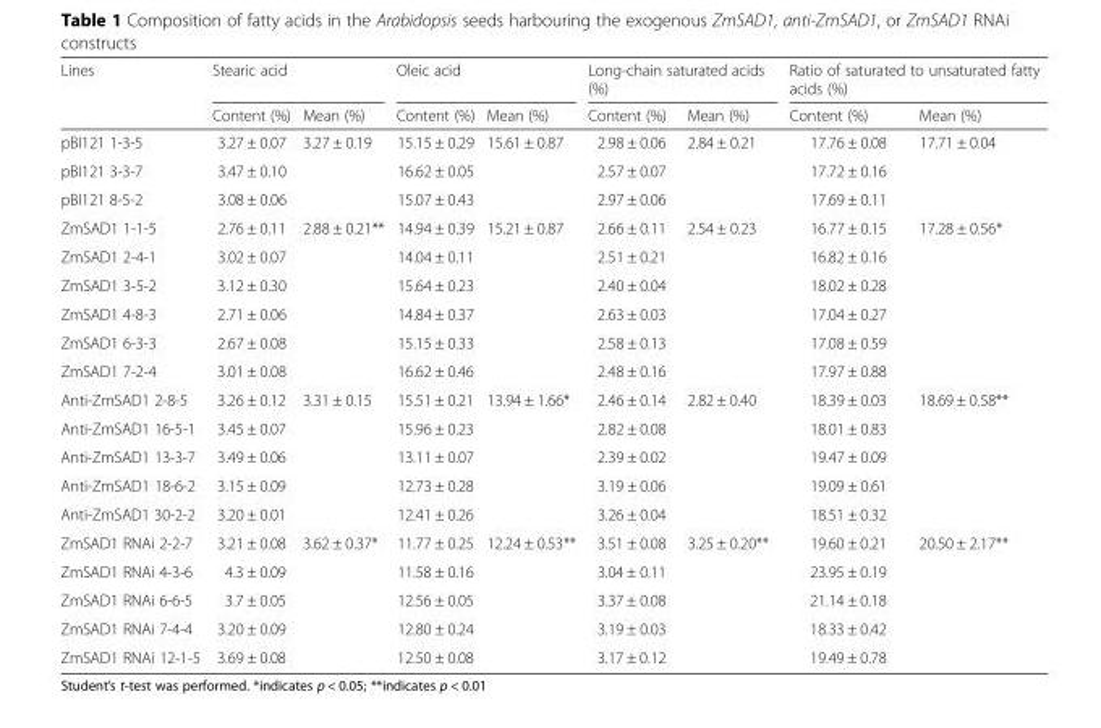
<table><thead><tr><td rowspan="2">Lines</td><td colspan="2">Stearic acid</td><td colspan="2">Oleic acid</td><td colspan="2">Long-chain saturated acids (%)</td><td colspan="2">Ratio of saturated to unsaturated fatty acids (%)</td></tr><tr><td>Content (%)</td><td>Mean (%)</td><td>Content (%)</td><td>Mean (%)</td><td>Content (%)</td><td>Mean (%)</td><td>Content (%)</td><td>Mean (%)</td></tr></thead><tbody><tr><td>pBI121 1-3-5</td><td>3.27 ± 0.07</td><td rowspan="3">3.27 ± 0.19</td><td>15.15 ± 0.29</td><td rowspan="3">15.61 ± 0.87</td><td>2.98 ± 0.06</td><td rowspan="3">2.84 ± 0.21</td><td>17.76 ± 0.08</td><td rowspan="3">17.71 ± 0.04</td></tr><tr><td>pBI121 3-3-7</td><td>3.47 ± 0.10</td><td>16.62 ± 0.05</td><td>2.57 ± 0.07</td><td>17.72 ± 0.16</td></tr><tr><td>pBI121 8-5-2</td><td>3.08 ± 0.06</td><td>15.07 ± 0.43</td><td>2.97 ± 0.06</td><td>17.69 ± 0.11</td></tr><tr><td>ZmSAD1 1-1-5</td><td>2.76 ± 0.11</td><td rowspan="6">2.88 ± 0.21**</td><td>14.94 ± 0.39</td><td rowspan="6">15.21 ± 0.87</td><td>2.66 ± 0.11</td><td rowspan="6">2.54 ± 0.23</td><td>16.77 ± 0.15</td><td rowspan="6">17.28 ± 0.56*</td></tr><tr><td>ZmSAD1 2-4-1</td><td>3.02 ± 0.07</td><td>14.04 ± 0.11</td><td>2.51 ± 0.21</td><td>16.82 ± 0.16</td></tr><tr><td>ZmSAD1 3-5-2</td><td>3.12 ± 0.30</td><td>15.64 ± 0.23</td><td>2.40 ± 0.04</td><td>18.02 ± 0.28</td></tr><tr><td>ZmSAD1 4-8-3</td><td>2.71 ± 0.06</td><td>14.84 ± 0.37</td><td>2.63 ± 0.03</td><td>17.04 ± 0.27</td></tr><tr><td>ZmSAD1 6-3-3</td><td>2.67 ± 0.08</td><td>15.15 ± 0.33</td><td>2.58 ± 0.13</td><td>17.08 ± 0.59</td></tr><tr><td>ZmSAD1 7-2-4</td><td>3.01 ± 0.08</td><td>16.62 ± 0.46</td><td>2.48 ± 0.16</td><td>17.97 ± 0.88</td></tr><tr><td>Anti-ZmSAD1 2-8-5</td><td>3.26 ± 0.12</td><td rowspan="5">3.31 ± 0.15</td><td>15.51 ± 0.21</td><td rowspan="5">13.94 ± 1.66*</td><td>2.46 ± 0.14</td><td rowspan="5">2.82 ± 0.40</td><td>18.39 ± 0.03</td><td rowspan="5">18.69 ± 0.58**</td></tr><tr><td>Anti-ZmSAD1 16-5-1</td><td>3.45 ± 0.07</td><td>15.96 ± 0.23</td><td>2.82 ± 0.08</td><td>18.01 ± 0.83</td></tr><tr><td>Anti-ZmSAD1 13-3-7</td><td>3.49 ± 0.06</td><td>13.11 ± 0.07</td><td>2.39 ± 0.02</td><td>19.47 ± 0.09</td></tr><tr><td>Anti-ZmSAD1 18-6-2</td><td>3.15 ± 0.09</td><td>12.73 ± 0.28</td><td>3.19 ± 0.06</td><td>19.09 ± 0.61</td></tr><tr><td>Anti-ZmSAD1 30-2-2</td><td>3.20 ± 0.01</td><td>12.41 ± 0.26</td><td>3.26 ± 0.04</td><td>18.51 ± 0.32</td></tr><tr><td>ZmSAD1 RNAi 2-2-7</td><td>3.21 ± 0.08</td><td rowspan="5">3.62 ± 0.37*</td><td>11.77 ± 0.25</td><td rowspan="5">12.24 ± 0.53**</td><td>3.51 ± 0.08</td><td rowspan="5">3.25 ± 0.20**</td><td>19.60 ± 0.21</td><td rowspan="5">20.50 ± 2.17**</td></tr><tr><td>ZmSAD1 RNAi 4-3-6</td><td>4.3 ± 0.09</td><td>11.58 ± 0.16</td><td>3.04 ± 0.11</td><td>23.95 ± 0.19</td></tr><tr><td>ZmSAD1 RNAi 6-6-5</td><td>3.7 ± 0.05</td><td>12.56 ± 0.05</td><td>3.37 ± 0.08</td><td>21.14 ± 0.18</td></tr><tr><td>ZmSAD1 RNAi 7-4-4</td><td>3.20 ± 0.09</td><td>12.80 ± 0.24</td><td>3.19 ± 0.03</td><td>18.33 ± 0.42</td></tr><tr><td>ZmSAD1 RNAi 12-1-5</td><td>3.69 ± 0.08</td><td>12.50 ± 0.08</td><td>3.17 ± 0.12</td><td>19.49 ± 0.78</td></tr></tbody></table>